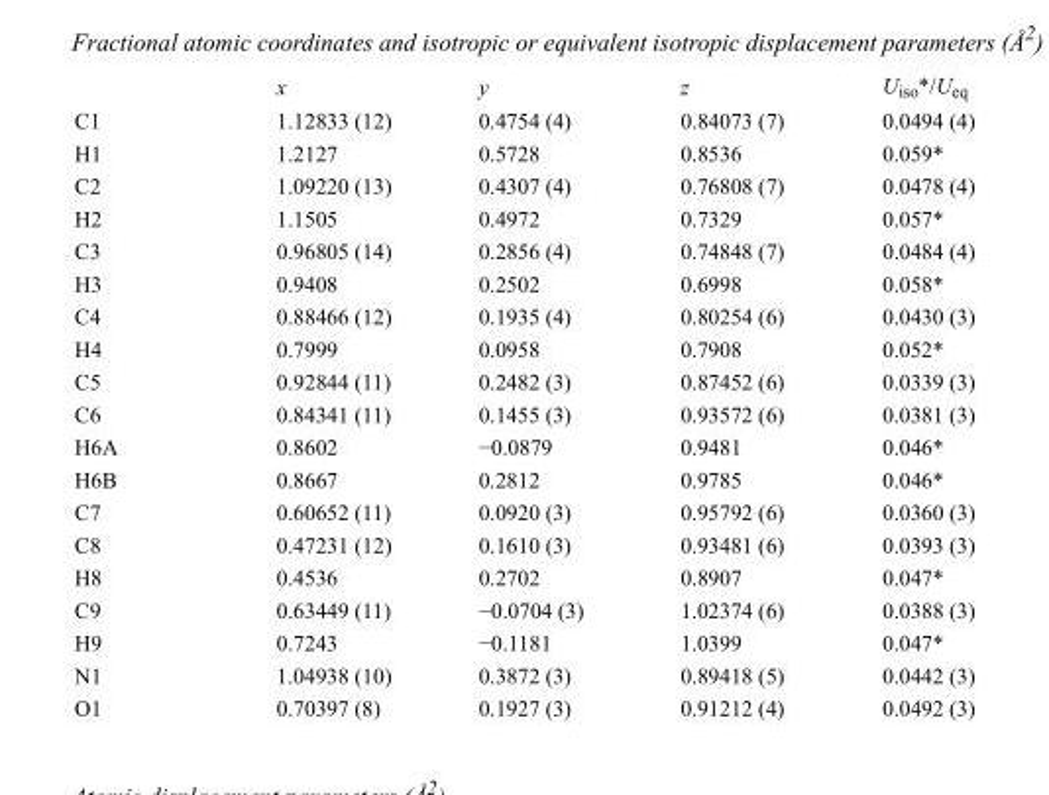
<table><thead><tr><td></td><td>x</td><td>y</td><td>z</td><td>U<sub>iso</sub>*/U<sub>eq</sub></td></tr></thead><tbody><tr><td>C1</td><td>1.12833 (12)</td><td>0.4754 (4)</td><td>0.84073 (7)</td><td>0.0494 (4)</td></tr><tr><td>H1</td><td>1.2127</td><td>0.5728</td><td>0.8536</td><td>0.059*</td></tr><tr><td>C2</td><td>1.09220 (13)</td><td>0.4307 (4)</td><td>0.76808 (7)</td><td>0.0478 (4)</td></tr><tr><td>H2</td><td>1.1505</td><td>0.4972</td><td>0.7329</td><td>0.057*</td></tr><tr><td>C3</td><td>0.96805 (14)</td><td>0.2856 (4)</td><td>0.74848 (7)</td><td>0.0484 (4)</td></tr><tr><td>H3</td><td>0.9408</td><td>0.2502</td><td>0.6998</td><td>0.058*</td></tr><tr><td>C4</td><td>0.88466 (12)</td><td>0.1935 (4)</td><td>0.80254 (6)</td><td>0.0430 (3)</td></tr><tr><td>H4</td><td>0.7999</td><td>0.0958</td><td>0.7908</td><td>0.052*</td></tr><tr><td>C5</td><td>0.92844 (11)</td><td>0.2482 (3)</td><td>0.87452 (6)</td><td>0.0339 (3)</td></tr><tr><td>C6</td><td>0.84341 (11)</td><td>0.1455 (3)</td><td>0.93572 (6)</td><td>0.0381 (3)</td></tr><tr><td>H6A</td><td>0.8602</td><td>−0.0879</td><td>0.9481</td><td>0.046*</td></tr><tr><td>H6B</td><td>0.8667</td><td>0.2812</td><td>0.9785</td><td>0.046*</td></tr><tr><td>C7</td><td>0.60652 (11)</td><td>0.0920 (3)</td><td>0.95792 (6)</td><td>0.0360 (3)</td></tr><tr><td>C8</td><td>0.47231 (12)</td><td>0.1610 (3)</td><td>0.93481 (6)</td><td>0.0393 (3)</td></tr><tr><td>H8</td><td>0.4536</td><td>0.2702</td><td>0.8907</td><td>0.047*</td></tr><tr><td>C9</td><td>0.63449 (11)</td><td>−0.0704 (3)</td><td>1.02374 (6)</td><td>0.0388 (3)</td></tr><tr><td>H9</td><td>0.7243</td><td>−0.1181</td><td>1.0399</td><td>0.047*</td></tr><tr><td>N1</td><td>1.04938 (10)</td><td>0.3872 (3)</td><td>0.89418 (5)</td><td>0.0442 (3)</td></tr><tr><td>O1</td><td>0.70397 (8)</td><td>0.1927 (3)</td><td>0.91212 (4)</td><td>0.0492 (3)</td></tr></tbody></table>